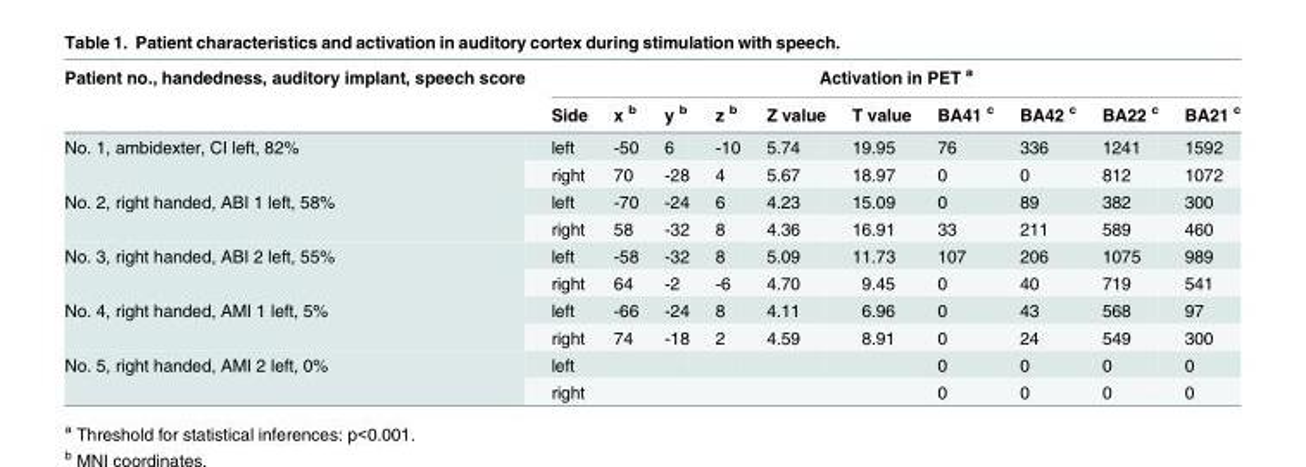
<table><thead><tr><td rowspan="2">Patient no., handedness, auditory implant, speech score</td><td colspan="10">Activation in PET <sup>a</sup></td></tr><tr><td>Side</td><td>x <sup>b</sup></td><td>y <sup>b</sup></td><td>z <sup>b</sup></td><td>Z value</td><td>T value</td><td>BA41 <sup>c</sup></td><td>BA42 <sup>c</sup></td><td>BA22 <sup>c</sup></td><td>BA21 <sup>c</sup></td></tr></thead><tbody><tr><td rowspan="2">No. 1, ambidexter, CI left, 82%</td><td>left</td><td>-50</td><td>6</td><td>-10</td><td>5.74</td><td>19.95</td><td>76</td><td>336</td><td>1241</td><td>1592</td></tr><tr><td>right</td><td>70</td><td>-28</td><td>4</td><td>5.67</td><td>18.97</td><td>0</td><td>0</td><td>812</td><td>1072</td></tr><tr><td rowspan="2">No. 2, right handed, ABI 1 left, 58%</td><td>left</td><td>-70</td><td>-24</td><td>6</td><td>4.23</td><td>15.09</td><td>0</td><td>89</td><td>382</td><td>300</td></tr><tr><td>right</td><td>58</td><td>-32</td><td>8</td><td>4.36</td><td>16.91</td><td>33</td><td>211</td><td>589</td><td>460</td></tr><tr><td rowspan="2">No. 3, right handed, ABI 2 left, 55%</td><td>left</td><td>-58</td><td>-32</td><td>8</td><td>5.09</td><td>11.73</td><td>107</td><td>206</td><td>1075</td><td>989</td></tr><tr><td>right</td><td>64</td><td>-2</td><td>-6</td><td>4.70</td><td>9.45</td><td>0</td><td>40</td><td>719</td><td>541</td></tr><tr><td rowspan="2">No. 4, right handed, AMI 1 left, 5%</td><td>left</td><td>-66</td><td>-24</td><td>8</td><td>4.11</td><td>6.96</td><td>0</td><td>43</td><td>568</td><td>97</td></tr><tr><td>right</td><td>74</td><td>-18</td><td>2</td><td>4.59</td><td>8.91</td><td>0</td><td>24</td><td>549</td><td>300</td></tr><tr><td rowspan="2">No. 5, right handed, AMI 2 left, 0%</td><td>left</td><td></td><td></td><td></td><td></td><td></td><td>0</td><td>0</td><td>0</td><td>0</td></tr><tr><td>right</td><td></td><td></td><td></td><td></td><td></td><td>0</td><td>0</td><td>0</td><td>0</td></tr></tbody></table>